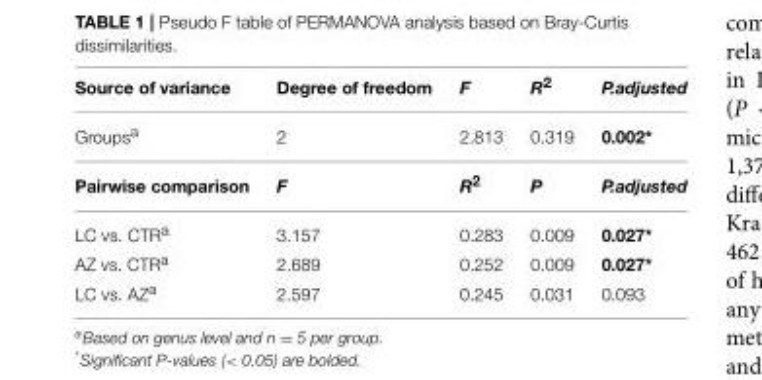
<table><thead><tr><td>Source of variance</td><td>Degree of freedom</td><td>F</td><td>R<sup>2</sup></td><td>P.adjusted</td></tr></thead><tbody><tr><td>Groups<sup>a</sup></td><td>2</td><td>2.813</td><td>0.319</td><td>0.002*</td></tr><tr><td>Pairwise comparison</td><td>F</td><td>R<sup>2</sup></td><td>P</td><td>P.adjusted</td></tr><tr><td>LC vs. CTR<sup>a</sup></td><td>3.157</td><td>0.283</td><td>0.009</td><td>0.027*</td></tr><tr><td>AZ vs. CTR<sup>a</sup></td><td>2.689</td><td>0.252</td><td>0.009</td><td>0.027*</td></tr><tr><td>LC vs. AZ<sup>a</sup></td><td>2.597</td><td>0.245</td><td>0.031</td><td>0.093</td></tr></tbody></table>